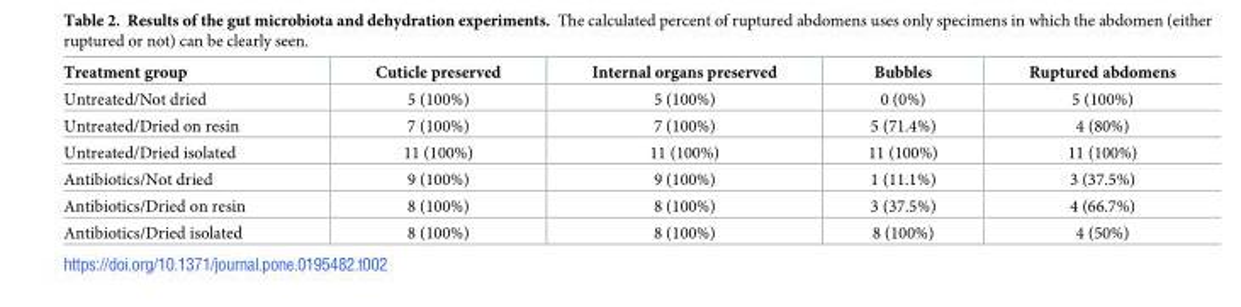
<table><thead><tr><td>Treatment group</td><td>Cuticle preserved</td><td>Internal organs preserved</td><td>Bubbles</td><td>Ruptured abdomens</td></tr></thead><tbody><tr><td>Untreated/Not dried</td><td>5 (100%)</td><td>5 (100%)</td><td>0 (0%)</td><td>5 (100%)</td></tr><tr><td>Untreated/Dried on resin</td><td>7 (100%)</td><td>7 (100%)</td><td>5 (71.4%)</td><td>4 (80%)</td></tr><tr><td>Untreated/Dried isolated</td><td>11 (100%)</td><td>11 (100%)</td><td>11 (100%)</td><td>11 (100%)</td></tr><tr><td>Antibiotics/Not dried</td><td>9 (100%)</td><td>9 (100%)</td><td>1 (11.1%)</td><td>3 (37.5%)</td></tr><tr><td>Antibiotics/Dried on resin</td><td>8 (100%)</td><td>8 (100%)</td><td>3 (37.5%)</td><td>4 (66.7%)</td></tr><tr><td>Antibiotics/Dried isolated</td><td>8 (100%)</td><td>8 (100%)</td><td>8 (100%)</td><td>4 (50%)</td></tr></tbody></table>